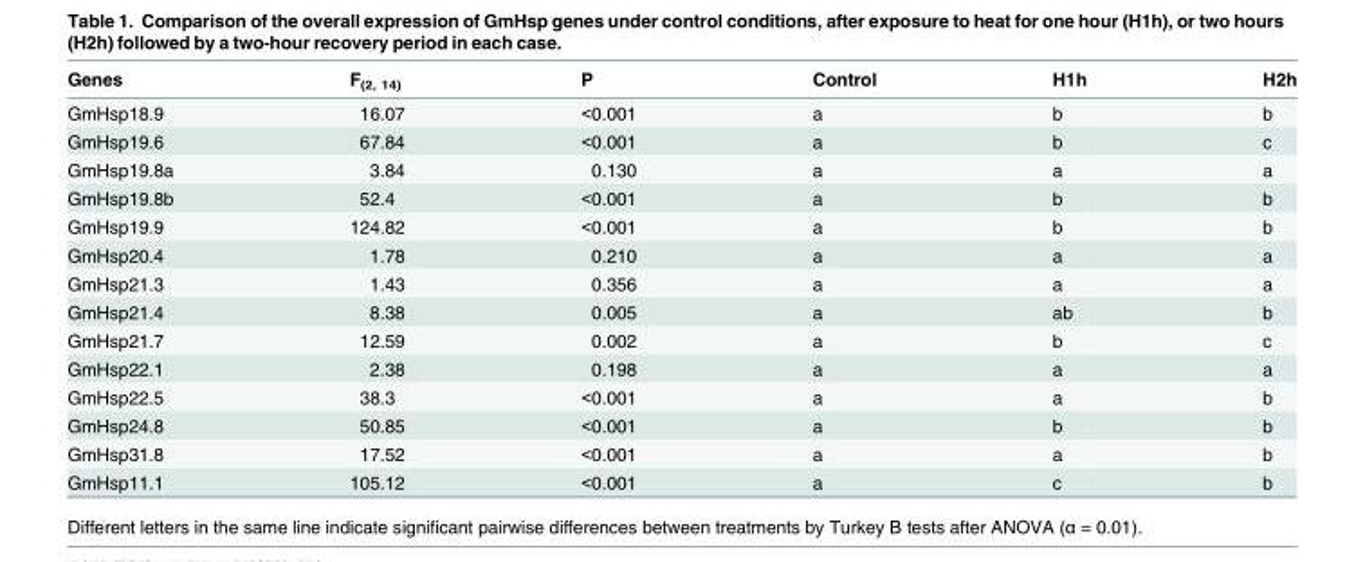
<table><thead><tr><td>Genes</td><td>F<sub>(2, 14)</sub></td><td>P</td><td>Control</td><td>H1h</td><td>H2h</td></tr></thead><tbody><tr><td>GmHsp18.9</td><td>16.07</td><td>&lt;0.001</td><td>a</td><td>b</td><td>b</td></tr><tr><td>GmHsp19.6</td><td>67.84</td><td>&lt;0.001</td><td>a</td><td>b</td><td>c</td></tr><tr><td>GmHsp19.8a</td><td>3.84</td><td>0.130</td><td>a</td><td>a</td><td>a</td></tr><tr><td>GmHsp19.8b</td><td>52.4</td><td>&lt;0.001</td><td>a</td><td>b</td><td>b</td></tr><tr><td>GmHsp19.9</td><td>124.82</td><td>&lt;0.001</td><td>a</td><td>b</td><td>b</td></tr><tr><td>GmHsp20.4</td><td>1.78</td><td>0.210</td><td>a</td><td>a</td><td>a</td></tr><tr><td>GmHsp21.3</td><td>1.43</td><td>0.356</td><td>a</td><td>a</td><td>a</td></tr><tr><td>GmHsp21.4</td><td>8.38</td><td>0.005</td><td>a</td><td>ab</td><td>b</td></tr><tr><td>GmHsp21.7</td><td>12.59</td><td>0.002</td><td>a</td><td>b</td><td>c</td></tr><tr><td>GmHsp22.1</td><td>2.38</td><td>0.198</td><td>a</td><td>a</td><td>a</td></tr><tr><td>GmHsp22.5</td><td>38.3</td><td>&lt;0.001</td><td>a</td><td>a</td><td>b</td></tr><tr><td>GmHsp24.8</td><td>50.85</td><td>&lt;0.001</td><td>a</td><td>b</td><td>b</td></tr><tr><td>GmHsp31.8</td><td>17.52</td><td>&lt;0.001</td><td>a</td><td>a</td><td>b</td></tr><tr><td>GmHsp11.1</td><td>105.12</td><td>&lt;0.001</td><td>a</td><td>c</td><td>b</td></tr></tbody></table>